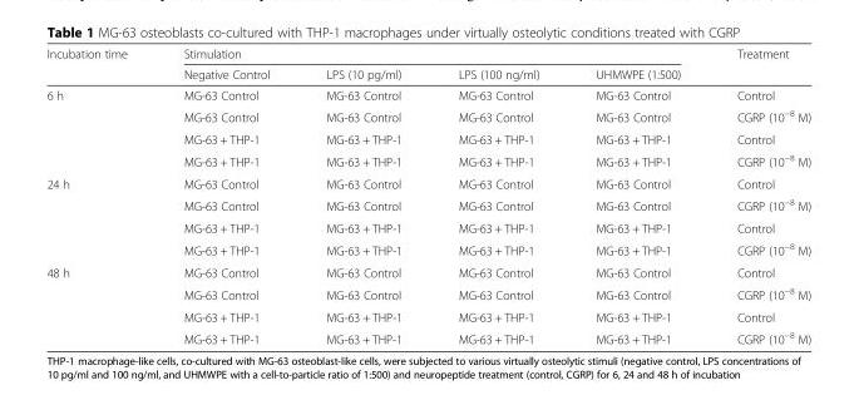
<table><thead><tr><td rowspan="2">Incubation time</td><td colspan="4">Stimulation</td><td rowspan="2">Treatment</td></tr><tr><td>Negative Control</td><td>LPS (10 pg/ml)</td><td>LPS (100 ng/ml)</td><td>UHMWPE (1:500)</td></tr></thead><tbody><tr><td rowspan="4">6 h</td><td>MG-63 Control</td><td>MG-63 Control</td><td>MG-63 Control</td><td>MG-63 Control</td><td>Control</td></tr><tr><td>MG-63 Control</td><td>MG-63 Control</td><td>MG-63 Control</td><td>MG-63 Control</td><td>CGRP (10<sup>−8</sup> M)</td></tr><tr><td>MG-63 + THP-1</td><td>MG-63 + THP-1</td><td>MG-63 + THP-1</td><td>MG-63 + THP-1</td><td>Control</td></tr><tr><td>MG-63 + THP-1</td><td>MG-63 + THP-1</td><td>MG-63 + THP-1</td><td>MG-63 + THP-1</td><td>CGRP (10<sup>−8</sup> M)</td></tr><tr><td rowspan="4">24 h</td><td>MG-63 Control</td><td>MG-63 Control</td><td>MG-63 Control</td><td>MG-63 Control</td><td>Control</td></tr><tr><td>MG-63 Control</td><td>MG-63 Control</td><td>MG-63 Control</td><td>MG-63 Control</td><td>CGRP (10<sup>−8</sup> M)</td></tr><tr><td>MG-63 + THP-1</td><td>MG-63 + THP-1</td><td>MG-63 + THP-1</td><td>MG-63 + THP-1</td><td>Control</td></tr><tr><td>MG-63 + THP-1</td><td>MG-63 + THP-1</td><td>MG-63 + THP-1</td><td>MG-63 + THP-1</td><td>CGRP (10<sup>−8</sup> M)</td></tr><tr><td rowspan="4">48 h</td><td>MG-63 Control</td><td>MG-63 Control</td><td>MG-63 Control</td><td>MG-63 Control</td><td>Control</td></tr><tr><td>MG-63 Control</td><td>MG-63 Control</td><td>MG-63 Control</td><td>MG-63 Control</td><td>CGRP (10<sup>−8</sup> M)</td></tr><tr><td>MG-63 + THP-1</td><td>MG-63 + THP-1</td><td>MG-63 + THP-1</td><td>MG-63 + THP-1</td><td>Control</td></tr><tr><td>MG-63 + THP-1</td><td>MG-63 + THP-1</td><td>MG-63 + THP-1</td><td>MG-63 + THP-1</td><td>CGRP (10<sup>−8</sup> M)</td></tr></tbody></table>